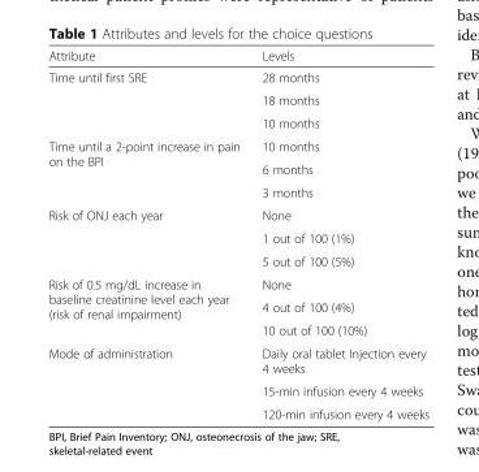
<table><thead><tr><td>Attribute</td><td>Levels</td></tr></thead><tbody><tr><td rowspan="3">Time until first SRE</td><td>28 months</td></tr><tr><td>18 months</td></tr><tr><td>10 months</td></tr><tr><td rowspan="3">Time until a 2-point increase in pain on the BPI</td><td>10 months</td></tr><tr><td>6 months</td></tr><tr><td>3 months</td></tr><tr><td rowspan="3">Risk of ONJ each year</td><td>None</td></tr><tr><td>1 out of 100 (1%)</td></tr><tr><td>5 out of 100 (5%)</td></tr><tr><td rowspan="3">Risk of 0.5 mg/dL increase in baseline creatinine level each year (risk of renal impairment)</td><td>None</td></tr><tr><td>4 out of 100 (4%)</td></tr><tr><td>10 out of 100 (10%)</td></tr><tr><td rowspan="3">Mode of administration</td><td>Daily oral tablet Injection every 4 weeks</td></tr><tr><td>15-min infusion every 4 weeks</td></tr><tr><td>120-min infusion every 4 weeks</td></tr></tbody></table>